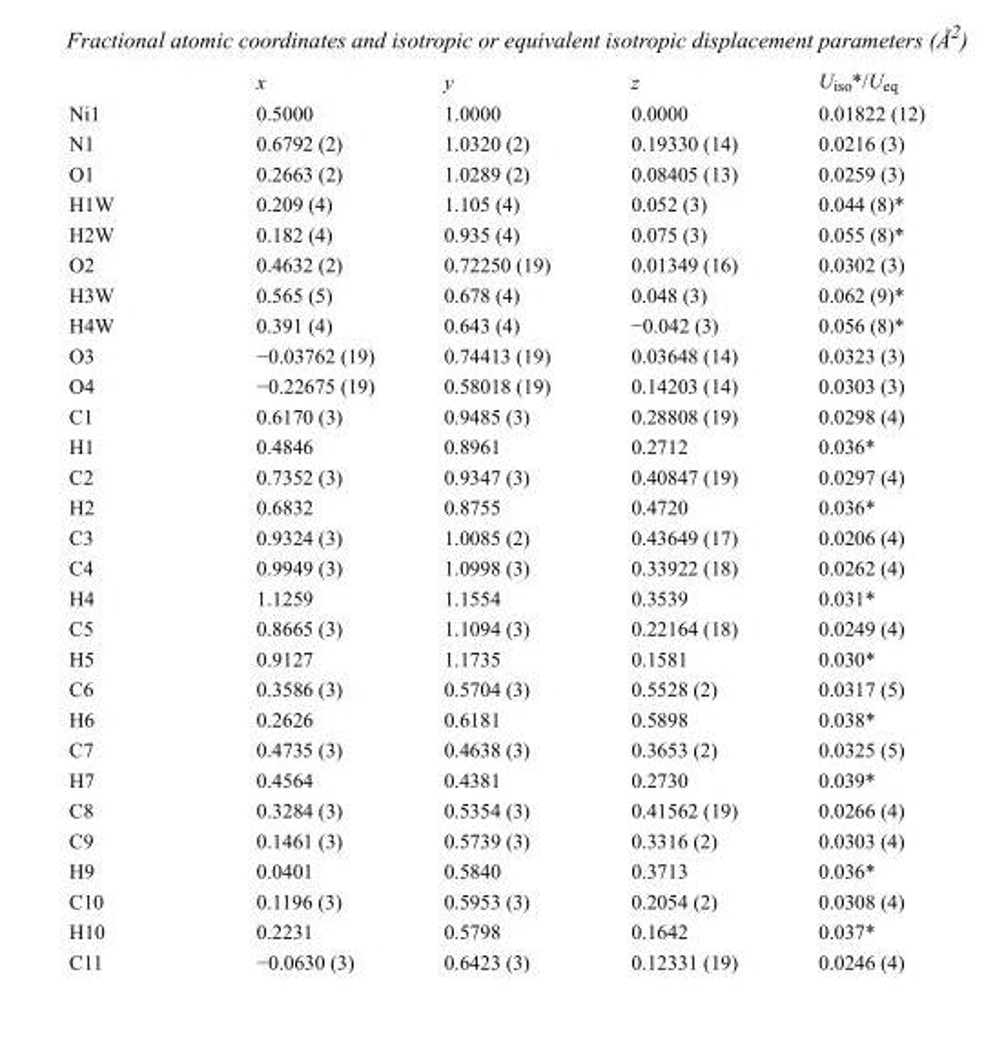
<table><thead><tr><td></td><td>x</td><td>y</td><td>z</td><td>U<sub>iso</sub>*/U<sub>eq</sub></td></tr></thead><tbody><tr><td>Ni1</td><td>0.5000</td><td>1.0000</td><td>0.0000</td><td>0.01822 (12)</td></tr><tr><td>N1</td><td>0.6792 (2)</td><td>1.0320 (2)</td><td>0.19330 (14)</td><td>0.0216 (3)</td></tr><tr><td>O1</td><td>0.2663 (2)</td><td>1.0289 (2)</td><td>0.08405 (13)</td><td>0.0259 (3)</td></tr><tr><td>H1W</td><td>0.209 (4)</td><td>1.105 (4)</td><td>0.052 (3)</td><td>0.044 (8)*</td></tr><tr><td>H2W</td><td>0.182 (4)</td><td>0.935 (4)</td><td>0.075 (3)</td><td>0.055 (8)*</td></tr><tr><td>O2</td><td>0.4632 (2)</td><td>0.72250 (19)</td><td>0.01349 (16)</td><td>0.0302 (3)</td></tr><tr><td>H3W</td><td>0.565 (5)</td><td>0.678 (4)</td><td>0.048 (3)</td><td>0.062 (9)*</td></tr><tr><td>H4W</td><td>0.391 (4)</td><td>0.643 (4)</td><td>−0.042 (3)</td><td>0.056 (8)*</td></tr><tr><td>O3</td><td>−0.03762 (19)</td><td>0.74413 (19)</td><td>0.03648 (14)</td><td>0.0323 (3)</td></tr><tr><td>O4</td><td>−0.22675 (19)</td><td>0.58018 (19)</td><td>0.14203 (14)</td><td>0.0303 (3)</td></tr><tr><td>C1</td><td>0.6170 (3)</td><td>0.9485 (3)</td><td>0.28808 (19)</td><td>0.0298 (4)</td></tr><tr><td>H1</td><td>0.4846</td><td>0.8961</td><td>0.2712</td><td>0.036*</td></tr><tr><td>C2</td><td>0.7352 (3)</td><td>0.9347 (3)</td><td>0.40847 (19)</td><td>0.0297 (4)</td></tr><tr><td>H2</td><td>0.6832</td><td>0.8755</td><td>0.4720</td><td>0.036*</td></tr><tr><td>C3</td><td>0.9324 (3)</td><td>1.0085 (2)</td><td>0.43649 (17)</td><td>0.0206 (4)</td></tr><tr><td>C4</td><td>0.9949 (3)</td><td>1.0998 (3)</td><td>0.33922 (18)</td><td>0.0262 (4)</td></tr><tr><td>H4</td><td>1.1259</td><td>1.1554</td><td>0.3539</td><td>0.031*</td></tr><tr><td>C5</td><td>0.8665 (3)</td><td>1.1094 (3)</td><td>0.22164 (18)</td><td>0.0249 (4)</td></tr><tr><td>H5</td><td>0.9127</td><td>1.1735</td><td>0.1581</td><td>0.030*</td></tr><tr><td>C6</td><td>0.3586 (3)</td><td>0.5704 (3)</td><td>0.5528 (2)</td><td>0.0317 (5)</td></tr><tr><td>H6</td><td>0.2626</td><td>0.6181</td><td>0.5898</td><td>0.038*</td></tr><tr><td>C7</td><td>0.4735 (3)</td><td>0.4638 (3)</td><td>0.3653 (2)</td><td>0.0325 (5)</td></tr><tr><td>H7</td><td>0.4564</td><td>0.4381</td><td>0.2730</td><td>0.039*</td></tr><tr><td>C8</td><td>0.3284 (3)</td><td>0.5354 (3)</td><td>0.41562 (19)</td><td>0.0266 (4)</td></tr><tr><td>C9</td><td>0.1461 (3)</td><td>0.5739 (3)</td><td>0.3316 (2)</td><td>0.0303 (4)</td></tr><tr><td>H9</td><td>0.0401</td><td>0.5840</td><td>0.3713</td><td>0.036*</td></tr><tr><td>C10</td><td>0.1196 (3)</td><td>0.5953 (3)</td><td>0.2054 (2)</td><td>0.0308 (4)</td></tr><tr><td>H10</td><td>0.2231</td><td>0.5798</td><td>0.1642</td><td>0.037*</td></tr><tr><td>C11</td><td>−0.0630 (3)</td><td>0.6423 (3)</td><td>0.12331 (19)</td><td>0.0246 (4)</td></tr></tbody></table>